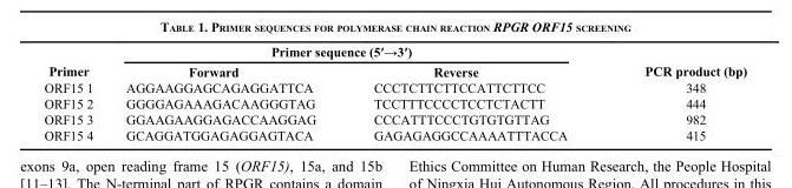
<table><thead><tr><td rowspan="2">Primer</td><td colspan="2">Primer sequence (5′→3′)</td><td rowspan="2">PCR product (bp)</td></tr><tr><td>Forward</td><td>Reverse</td></tr></thead><tbody><tr><td>ORF15 1</td><td>AGGAAGGAGCAGAGGATTCA</td><td>CCCTCTTCTTCCATTCTTCC</td><td>348</td></tr><tr><td>ORF15 2</td><td>GGGGAGAAAGACAAGGGTAG</td><td>TCCTTTCCCCTCCTCTACTT</td><td>444</td></tr><tr><td>ORF15 3</td><td>GGAAGAAGGAGACCAAGGAG</td><td>CCCATTTCCCTGTGTGTTAG</td><td>982</td></tr><tr><td>ORF15 4</td><td>GCAGGATGGAGAGGAGTACA</td><td>GAGAGAGGCCAAAATTTACCA</td><td>415</td></tr></tbody></table>